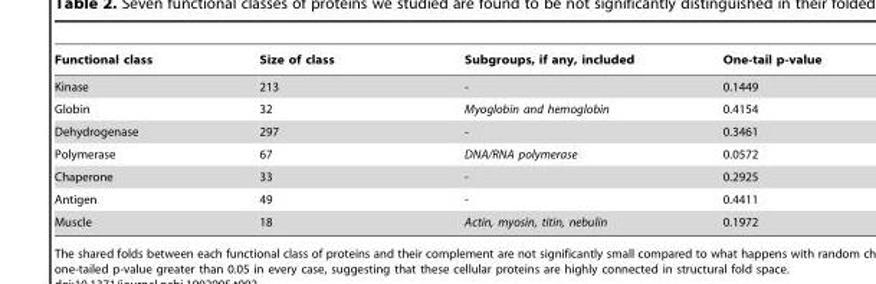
<table><thead><tr><td>Functional class</td><td>Size of class</td><td>Subgroups, if any, included</td><td>One-tail p-value</td></tr></thead><tbody><tr><td>Kinase</td><td>213</td><td>-</td><td>0.1449</td></tr><tr><td>Globin</td><td>32</td><td>Myoglobin and hemoglobin</td><td>0.4154</td></tr><tr><td>Dehydrogenase</td><td>297</td><td>-</td><td>0.3461</td></tr><tr><td>Polymerase</td><td>67</td><td>DNA/RNA polymerase</td><td>0.0572</td></tr><tr><td>Chaperone</td><td>33</td><td>-</td><td>0.2925</td></tr><tr><td>Antigen</td><td>49</td><td>-</td><td>0.4411</td></tr><tr><td>Muscle</td><td>18</td><td>Actin, myosin, titin, nebulin</td><td>0.1972</td></tr></tbody></table>